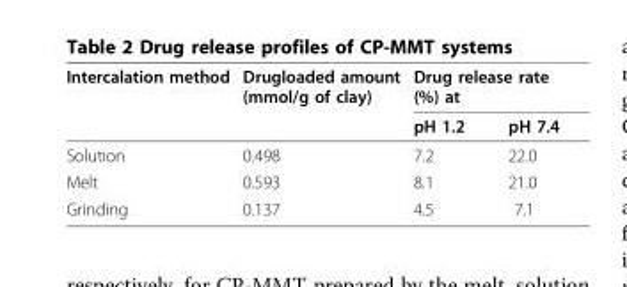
<table><thead><tr><td rowspan="2">Intercalation method</td><td rowspan="2">Drugloaded amount (mmol/g of clay)</td><td colspan="2">Drug release rate (%) at</td></tr><tr><td>pH 1.2</td><td>pH 7.4</td></tr></thead><tbody><tr><td>Solution</td><td>0.498</td><td>7.2</td><td>22.0</td></tr><tr><td>Melt</td><td>0.593</td><td>8.1</td><td>21.0</td></tr><tr><td>Grinding</td><td>0.137</td><td>4.5</td><td>7.1</td></tr></tbody></table>